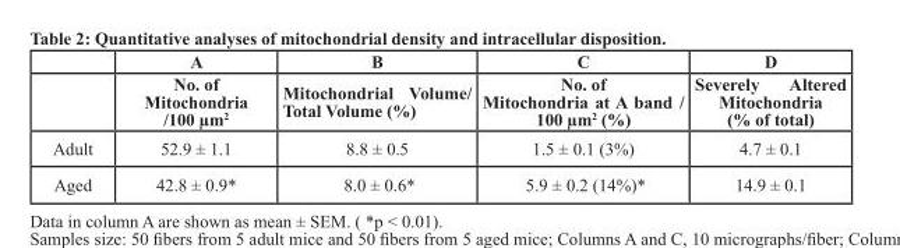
<table><thead><tr><td rowspan="2"></td><td rowspan="2">A No. of Mitochondria /100 µm<sup>2</sup></td><td rowspan="2">B Mitochondrial Volume/ Total Volume (%)</td><td rowspan="2">C No. of Mitochondria at A band / 100 µm<sup>2</sup> (%)</td><td rowspan="2">D Severely Altered Mitochondria (% of total)</td></tr><tr></tr></thead><tbody><tr><td>Adult</td><td>52.9 ± 1.1</td><td>8.8 ± 0.5</td><td>1.5 ± 0.1 (3%)</td><td>4.7 ± 0.1</td></tr><tr><td>Aged</td><td>42.8 ± 0.9*</td><td>8.0 ± 0.6*</td><td>5.9 ± 0.2 (14%)*</td><td>14.9 ± 0.1</td></tr></tbody></table>